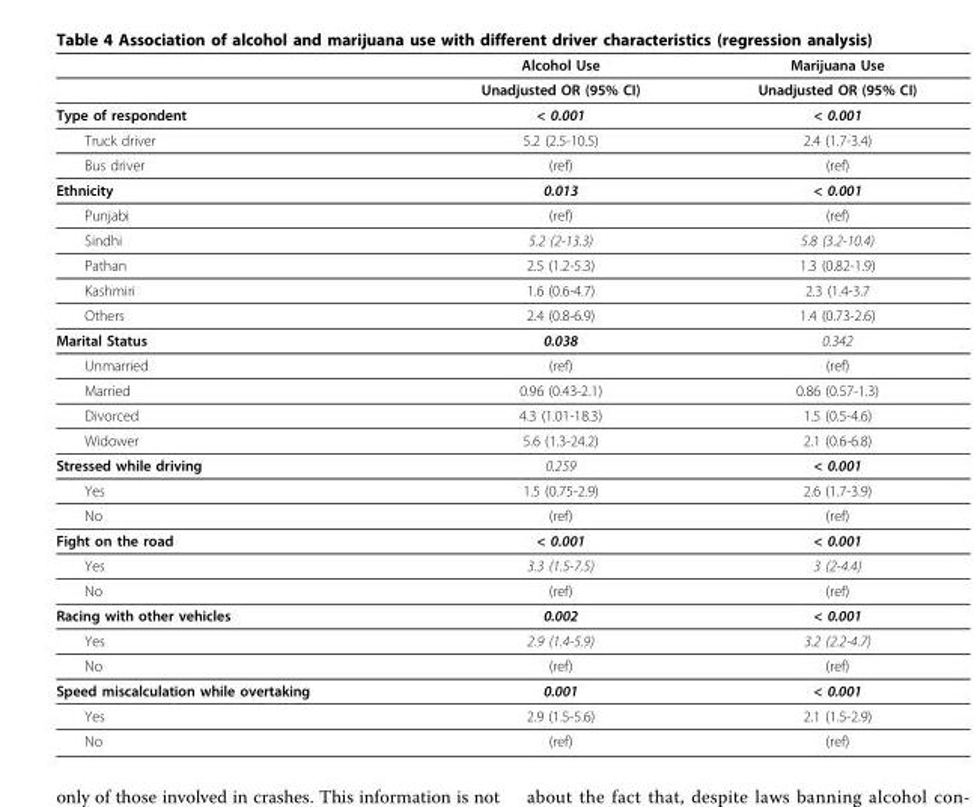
<table><thead><tr><td></td><td>Alcohol Use</td><td>Marijuana Use</td></tr></thead><tbody><tr><td></td><td>Unadjusted OR (95% CI)</td><td>Unadjusted OR (95% CI)</td></tr><tr><td>Type of respondent</td><td>&lt; 0.001</td><td>&lt; 0.001</td></tr><tr><td>Truck driver</td><td>5.2 (2.5-10.5)</td><td>2.4 (1.7-3.4)</td></tr><tr><td>Bus driver</td><td>(ref)</td><td>(ref)</td></tr><tr><td>Ethnicity</td><td>0.013</td><td>&lt; 0.001</td></tr><tr><td>Punjabi</td><td>(ref)</td><td>(ref)</td></tr><tr><td>Sindhi</td><td>5.2 (2-13.3)</td><td>5.8 (3.2-10.4)</td></tr><tr><td>Pathan</td><td>2.5 (1.2-5.3)</td><td>1.3 (0.82-1.9)</td></tr><tr><td>Kashmiri</td><td>1.6 (0.6-4.7)</td><td>2.3 (1.4-3.7</td></tr><tr><td>Others</td><td>2.4 (0.8-6.9)</td><td>1.4 (0.73-2.6)</td></tr><tr><td>Marital Status</td><td>0.038</td><td>0.342</td></tr><tr><td>Unmarried</td><td>(ref)</td><td>(ref)</td></tr><tr><td>Married</td><td>0.96 (0.43-2.1)</td><td>0.86 (0.57-1.3)</td></tr><tr><td>Divorced</td><td>4.3 (1.01-18.3)</td><td>1.5 (0.5-4.6)</td></tr><tr><td>Widower</td><td>5.6 (1.3-24.2)</td><td>2.1 (0.6-6.8)</td></tr><tr><td>Stressed while driving</td><td>0.259</td><td>&lt; 0.001</td></tr><tr><td>Yes</td><td>1.5 (0.75-2.9)</td><td>2.6 (1.7-3.9)</td></tr><tr><td>No</td><td>(ref)</td><td>(ref)</td></tr><tr><td>Fight on the road</td><td>&lt; 0.001</td><td>&lt; 0.001</td></tr><tr><td>Yes</td><td>3.3 (1.5-7.5)</td><td>3 (2-4.4)</td></tr><tr><td>No</td><td>(ref)</td><td>(ref)</td></tr><tr><td>Racing with other vehicles</td><td>0.002</td><td>&lt; 0.001</td></tr><tr><td>Yes</td><td>2.9 (1.4-5.9)</td><td>3.2 (2.2-4.7)</td></tr><tr><td>No</td><td>(ref)</td><td>(ref)</td></tr><tr><td>Speed miscalculation while overtaking</td><td>0.001</td><td>&lt; 0.001</td></tr><tr><td>Yes</td><td>2.9 (1.5-5.6)</td><td>2.1 (1.5-2.9)</td></tr><tr><td>No</td><td>(ref)</td><td>(ref)</td></tr></tbody></table>